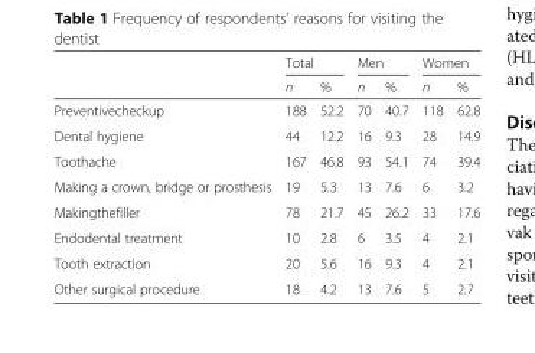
<table><thead><tr><td rowspan="2"></td><td colspan="2">Total</td><td colspan="2">Men</td><td colspan="2">Women</td></tr><tr><td>n</td><td>%</td><td>n</td><td>%</td><td>n</td><td>%</td></tr></thead><tbody><tr><td>Preventivecheckup</td><td>188</td><td>52.2</td><td>70</td><td>40.7</td><td>118</td><td>62.8</td></tr><tr><td>Dental hygiene</td><td>44</td><td>12.2</td><td>16</td><td>9.3</td><td>28</td><td>14.9</td></tr><tr><td>Toothache</td><td>167</td><td>46.8</td><td>93</td><td>54.1</td><td>74</td><td>39.4</td></tr><tr><td>Making a crown, bridge or prosthesis</td><td>19</td><td>5.3</td><td>13</td><td>7.6</td><td>6</td><td>3.2</td></tr><tr><td>Makingthefiller</td><td>78</td><td>21.7</td><td>45</td><td>26.2</td><td>33</td><td>17.6</td></tr><tr><td>Endodental treatment</td><td>10</td><td>2.8</td><td>6</td><td>3.5</td><td>4</td><td>2.1</td></tr><tr><td>Tooth extraction</td><td>20</td><td>5.6</td><td>16</td><td>9.3</td><td>4</td><td>2.1</td></tr><tr><td>Other surgical procedure</td><td>18</td><td>4.2</td><td>13</td><td>7.6</td><td>5</td><td>2.7</td></tr></tbody></table>